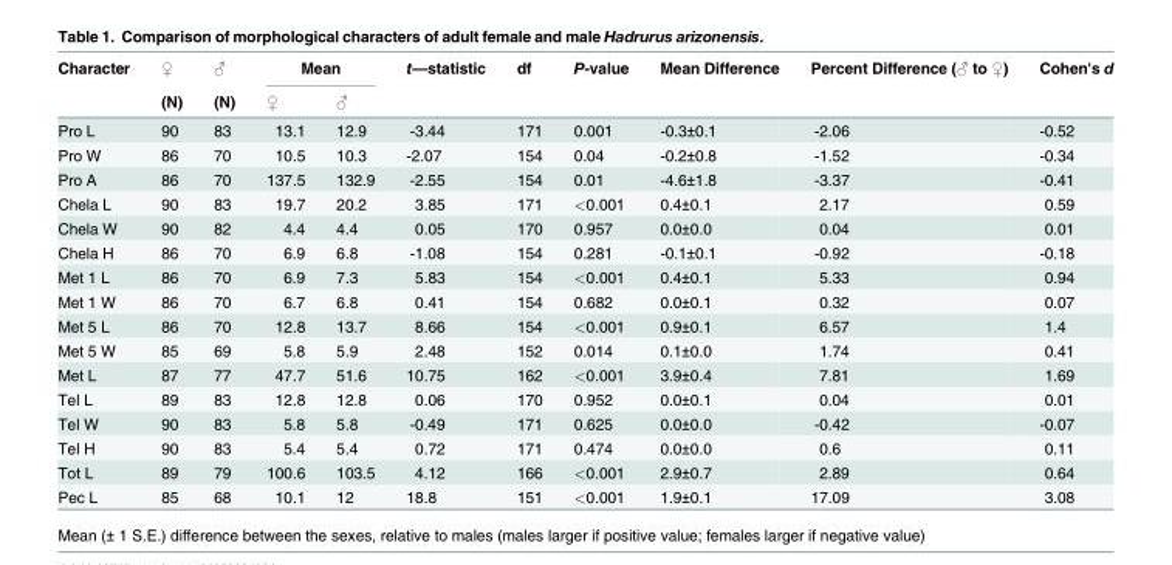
<table><thead><tr><td rowspan="2">Character</td><td rowspan="2">♀ (N)</td><td rowspan="2">♂ (N)</td><td colspan="2">Mean</td><td rowspan="2">t—statistic</td><td rowspan="2">df</td><td rowspan="2">P-value</td><td rowspan="2">Mean Difference</td><td rowspan="2">Percent Difference (♂ to ♀)</td><td rowspan="2">Cohen&#x27;s d</td></tr><tr><td>♀</td><td>♂</td></tr></thead><tbody><tr><td>Pro L</td><td>90</td><td>83</td><td>13.1</td><td>12.9</td><td>-3.44</td><td>171</td><td>0.001</td><td>-0.3±0.1</td><td>-2.06</td><td>-0.52</td></tr><tr><td>Pro W</td><td>86</td><td>70</td><td>10.5</td><td>10.3</td><td>-2.07</td><td>154</td><td>0.04</td><td>-0.2±0.8</td><td>-1.52</td><td>-0.34</td></tr><tr><td>Pro A</td><td>86</td><td>70</td><td>137.5</td><td>132.9</td><td>-2.55</td><td>154</td><td>0.01</td><td>-4.6±1.8</td><td>-3.37</td><td>-0.41</td></tr><tr><td>Chela L</td><td>90</td><td>83</td><td>19.7</td><td>20.2</td><td>3.85</td><td>171</td><td>&lt;0.001</td><td>0.4±0.1</td><td>2.17</td><td>0.59</td></tr><tr><td>Chela W</td><td>90</td><td>82</td><td>4.4</td><td>4.4</td><td>0.05</td><td>170</td><td>0.957</td><td>0.0±0.0</td><td>0.04</td><td>0.01</td></tr><tr><td>Chela H</td><td>86</td><td>70</td><td>6.9</td><td>6.8</td><td>-1.08</td><td>154</td><td>0.281</td><td>-0.1±0.1</td><td>-0.92</td><td>-0.18</td></tr><tr><td>Met 1 L</td><td>86</td><td>70</td><td>6.9</td><td>7.3</td><td>5.83</td><td>154</td><td>&lt;0.001</td><td>0.4±0.1</td><td>5.33</td><td>0.94</td></tr><tr><td>Met 1 W</td><td>86</td><td>70</td><td>6.7</td><td>6.8</td><td>0.41</td><td>154</td><td>0.682</td><td>0.0±0.1</td><td>0.32</td><td>0.07</td></tr><tr><td>Met 5 L</td><td>86</td><td>70</td><td>12.8</td><td>13.7</td><td>8.66</td><td>154</td><td>&lt;0.001</td><td>0.9±0.1</td><td>6.57</td><td>1.4</td></tr><tr><td>Met 5 W</td><td>85</td><td>69</td><td>5.8</td><td>5.9</td><td>2.48</td><td>152</td><td>0.014</td><td>0.1±0.0</td><td>1.74</td><td>0.41</td></tr><tr><td>Met L</td><td>87</td><td>77</td><td>47.7</td><td>51.6</td><td>10.75</td><td>162</td><td>&lt;0.001</td><td>3.9±0.4</td><td>7.81</td><td>1.69</td></tr><tr><td>Tel L</td><td>89</td><td>83</td><td>12.8</td><td>12.8</td><td>0.06</td><td>170</td><td>0.952</td><td>0.0±0.1</td><td>0.04</td><td>0.01</td></tr><tr><td>Tel W</td><td>90</td><td>83</td><td>5.8</td><td>5.8</td><td>-0.49</td><td>171</td><td>0.625</td><td>0.0±0.0</td><td>-0.42</td><td>-0.07</td></tr><tr><td>Tel H</td><td>90</td><td>83</td><td>5.4</td><td>5.4</td><td>0.72</td><td>171</td><td>0.474</td><td>0.0±0.0</td><td>0.6</td><td>0.11</td></tr><tr><td>Tot L</td><td>89</td><td>79</td><td>100.6</td><td>103.5</td><td>4.12</td><td>166</td><td>&lt;0.001</td><td>2.9±0.7</td><td>2.89</td><td>0.64</td></tr><tr><td>Pec L</td><td>85</td><td>68</td><td>10.1</td><td>12</td><td>18.8</td><td>151</td><td>&lt;0.001</td><td>1.9±0.1</td><td>17.09</td><td>3.08</td></tr></tbody></table>